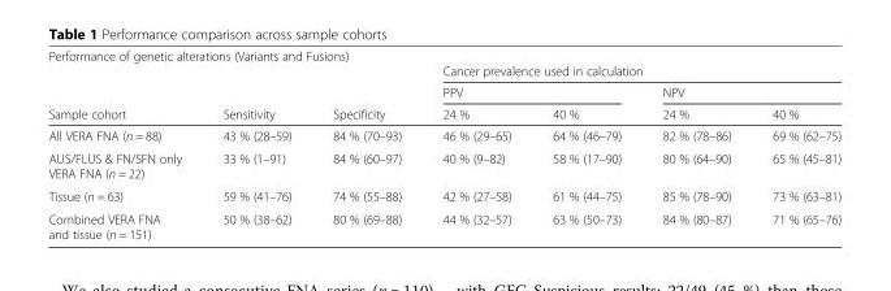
<table><thead><tr><td colspan="7">Performance of genetic alterations (Variants and Fusions)</td></tr><tr><td rowspan="3">Sample cohort</td><td rowspan="3">Sensitivity</td><td rowspan="3">Specificity</td><td colspan="4">Cancer prevalence used in calculation</td></tr><tr><td colspan="2">PPV</td><td colspan="2">NPV</td></tr><tr><td>24 %</td><td>40 %</td><td>24 %</td><td>40 %</td></tr></thead><tbody><tr><td>All VERA FNA (n = 88)</td><td>43 % (28–59)</td><td>84 % (70–93)</td><td>46 % (29–65)</td><td>64 % (46–79)</td><td>82 % (78–86)</td><td>69 % (62–75)</td></tr><tr><td>AUS/FLUS &amp; FN/SFN only VERA FNA (n = 22)</td><td>33 % (1–91)</td><td>84 % (60–97)</td><td>40 % (9–82)</td><td>58 % (17–90)</td><td>80 % (64–90)</td><td>65 % (45–81)</td></tr><tr><td>Tissue (n = 63)</td><td>59 % (41–76)</td><td>74 % (55–88)</td><td>42 % (27–58)</td><td>61 % (44–75)</td><td>85 % (78–90)</td><td>73 % (63–81)</td></tr><tr><td>Combined VERA FNA and tissue (n = 151)</td><td>50 % (38–62)</td><td>80 % (69–88)</td><td>44 % (32–57)</td><td>63 % (50–73)</td><td>84 % (80–87)</td><td>71 % (65–76)</td></tr></tbody></table>